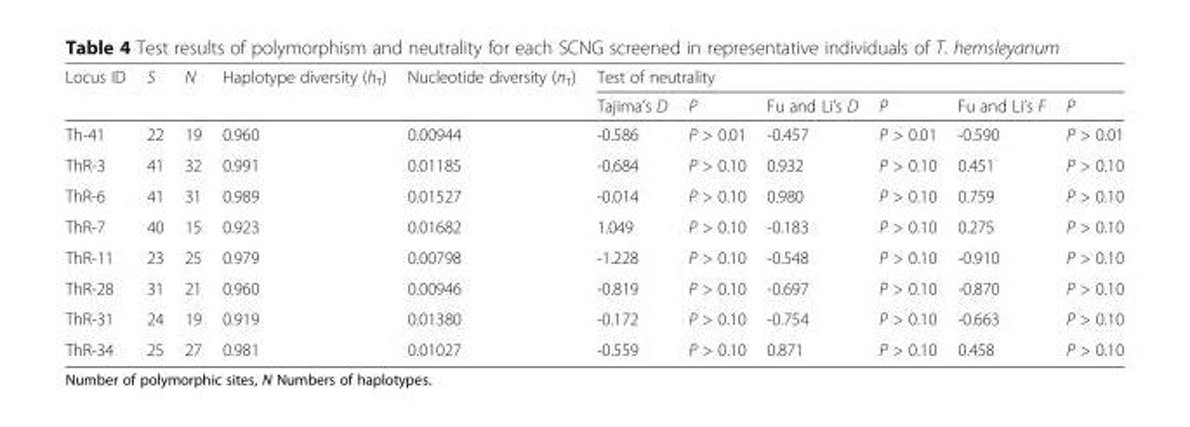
<table><thead><tr><td rowspan="2">Locus ID</td><td rowspan="2">S</td><td rowspan="2">N</td><td rowspan="2">Haplotype diversity (h<sub>T</sub>)</td><td rowspan="2">Nucleotide diversity (π<sub>T</sub>)</td><td colspan="6">Test of neutrality</td></tr><tr><td>Tajima’s D</td><td>P</td><td>Fu and Li’s D</td><td>P</td><td>Fu and Li’s F</td><td>P</td></tr></thead><tbody><tr><td>Th-41</td><td>22</td><td>19</td><td>0.960</td><td>0.00944</td><td>-0.586</td><td>P &gt; 0.01</td><td>-0.457</td><td>P &gt; 0.01</td><td>-0.590</td><td>P &gt; 0.01</td></tr><tr><td>ThR-3</td><td>41</td><td>32</td><td>0.991</td><td>0.01185</td><td>-0.684</td><td>P &gt; 0.10</td><td>0.932</td><td>P &gt; 0.10</td><td>0.451</td><td>P &gt; 0.10</td></tr><tr><td>ThR-6</td><td>41</td><td>31</td><td>0.989</td><td>0.01527</td><td>-0.014</td><td>P &gt; 0.10</td><td>0.980</td><td>P &gt; 0.10</td><td>0.759</td><td>P &gt; 0.10</td></tr><tr><td>ThR-7</td><td>40</td><td>15</td><td>0.923</td><td>0.01682</td><td>1.049</td><td>P &gt; 0.10</td><td>-0.183</td><td>P &gt; 0.10</td><td>0.275</td><td>P &gt; 0.10</td></tr><tr><td>ThR-11</td><td>23</td><td>25</td><td>0.979</td><td>0.00798</td><td>-1.228</td><td>P &gt; 0.10</td><td>-0.548</td><td>P &gt; 0.10</td><td>-0.910</td><td>P &gt; 0.10</td></tr><tr><td>ThR-28</td><td>31</td><td>21</td><td>0.960</td><td>0.00946</td><td>-0.819</td><td>P &gt; 0.10</td><td>-0.697</td><td>P &gt; 0.10</td><td>-0.870</td><td>P &gt; 0.10</td></tr><tr><td>ThR-31</td><td>24</td><td>19</td><td>0.919</td><td>0.01380</td><td>-0.172</td><td>P &gt; 0.10</td><td>-0.754</td><td>P &gt; 0.10</td><td>-0.663</td><td>P &gt; 0.10</td></tr><tr><td>ThR-34</td><td>25</td><td>27</td><td>0.981</td><td>0.01027</td><td>-0.559</td><td>P &gt; 0.10</td><td>0.871</td><td>P &gt; 0.10</td><td>0.458</td><td>P &gt; 0.10</td></tr></tbody></table>